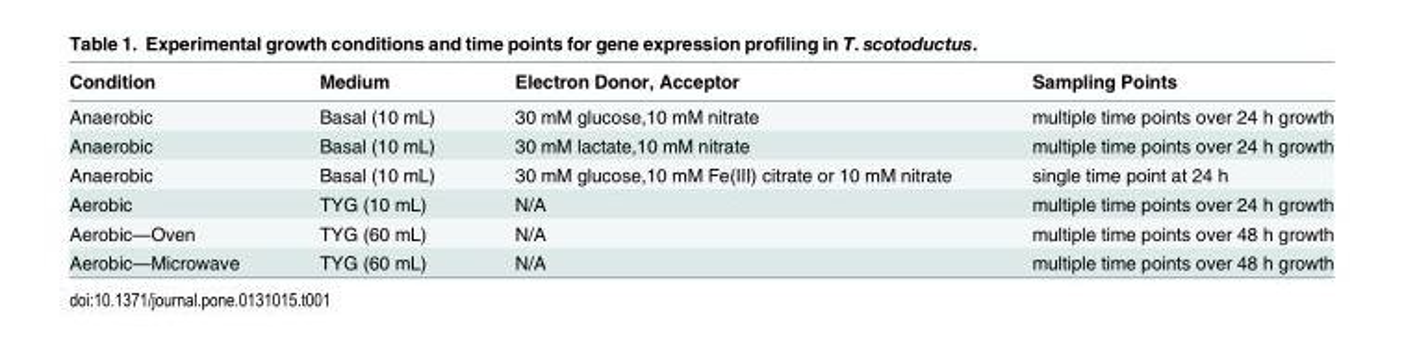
<table><thead><tr><td>Condition</td><td>Medium</td><td>Electron Donor, Acceptor</td><td>Sampling Points</td></tr></thead><tbody><tr><td>Anaerobic</td><td>Basal (10 mL)</td><td>30 mM glucose,10 mM nitrate</td><td>multiple time points over 24 h growth</td></tr><tr><td>Anaerobic</td><td>Basal (10 mL)</td><td>30 mM lactate,10 mM nitrate</td><td>multiple time points over 24 h growth</td></tr><tr><td>Anaerobic</td><td>Basal (10 mL)</td><td>30 mM glucose,10 mM Fe(III) citrate or 10 mM nitrate</td><td>single time point at 24 h</td></tr><tr><td>Aerobic</td><td>TYG (10 mL)</td><td>N/A</td><td>multiple time points over 24 h growth</td></tr><tr><td>Aerobic—Oven</td><td>TYG (60 mL)</td><td>N/A</td><td>multiple time points over 48 h growth</td></tr><tr><td>Aerobic—Microwave</td><td>TYG (60 mL)</td><td>N/A</td><td>multiple time points over 48 h growth</td></tr></tbody></table>